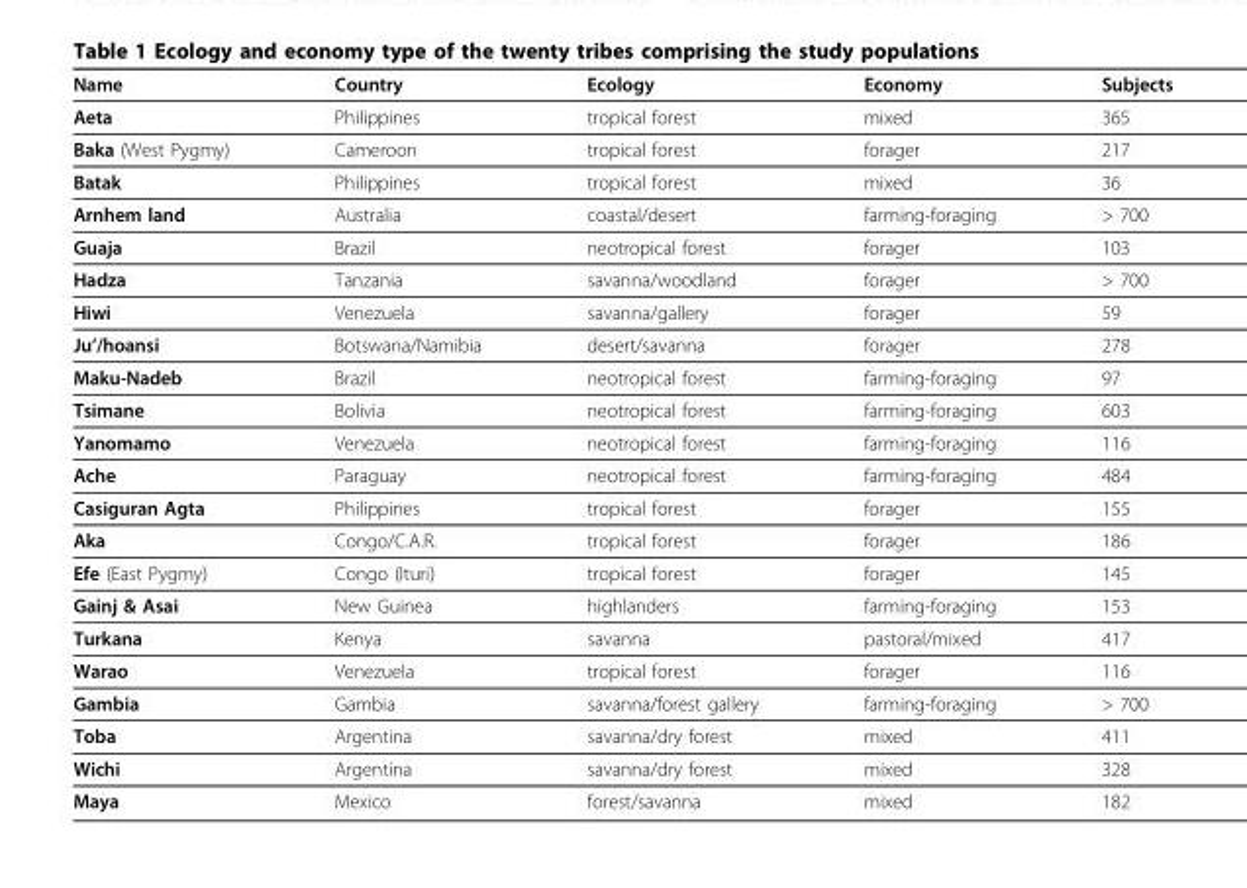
<table><thead><tr><td>Name</td><td>Country</td><td>Ecology</td><td>Economy</td><td>Subjects</td></tr></thead><tbody><tr><td>Aeta</td><td>Philippines</td><td>tropical forest</td><td>mixed</td><td>365</td></tr><tr><td>Baka (West Pygmy)</td><td>Cameroon</td><td>tropical forest</td><td>forager</td><td>217</td></tr><tr><td>Batak</td><td>Philippines</td><td>tropical forest</td><td>mixed</td><td>36</td></tr><tr><td>Arnhem land</td><td>Australia</td><td>coastal/desert</td><td>farming-foraging</td><td>&gt; 700</td></tr><tr><td>Guaja</td><td>Brazil</td><td>neotropical forest</td><td>forager</td><td>103</td></tr><tr><td>Hadza</td><td>Tanzania</td><td>savanna/woodland</td><td>forager</td><td>&gt; 700</td></tr><tr><td>Hiwi</td><td>Venezuela</td><td>savanna/gallery</td><td>forager</td><td>59</td></tr><tr><td>Ju’/hoansi</td><td>Botswana/Namibia</td><td>desert/savanna</td><td>forager</td><td>278</td></tr><tr><td>Maku-Nadeb</td><td>Brazil</td><td>neotropical forest</td><td>farming-foraging</td><td>97</td></tr><tr><td>Tsimane</td><td>Bolivia</td><td>neotropical forest</td><td>farming-foraging</td><td>603</td></tr><tr><td>Yanomamo</td><td>Venezuela</td><td>neotropical forest</td><td>farming-foraging</td><td>116</td></tr><tr><td>Ache</td><td>Paraguay</td><td>neotropical forest</td><td>farming-foraging</td><td>484</td></tr><tr><td>Casiguran Agta</td><td>Philippines</td><td>tropical forest</td><td>forager</td><td>155</td></tr><tr><td>Aka</td><td>Congo/C.A.R.</td><td>tropical forest</td><td>forager</td><td>186</td></tr><tr><td>Efe (East Pygmy)</td><td>Congo (Ituri)</td><td>tropical forest</td><td>forager</td><td>145</td></tr><tr><td>Gainj &amp; Asai</td><td>New Guinea</td><td>highlanders</td><td>farming-foraging</td><td>153</td></tr><tr><td>Turkana</td><td>Kenya</td><td>savanna</td><td>pastoral/mixed</td><td>417</td></tr><tr><td>Warao</td><td>Venezuela</td><td>tropical forest</td><td>forager</td><td>116</td></tr><tr><td>Gambia</td><td>Gambia</td><td>savanna/forest gallery</td><td>farming-foraging</td><td>&gt; 700</td></tr><tr><td>Toba</td><td>Argentina</td><td>savanna/dry forest</td><td>mixed</td><td>411</td></tr><tr><td>Wichi</td><td>Argentina</td><td>savanna/dry forest</td><td>mixed</td><td>328</td></tr><tr><td>Maya</td><td>Mexico</td><td>forest/savanna</td><td>mixed</td><td>182</td></tr></tbody></table>